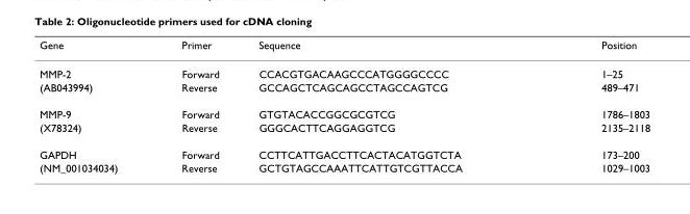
<table><thead><tr><td>Gene</td><td>Primer</td><td>Sequence</td><td>Position</td></tr></thead><tbody><tr><td>MMP-2</td><td>Forward</td><td>CCACGTGACAAGCCCATGGGGCCCC</td><td>1–25</td></tr><tr><td>(AB043994)</td><td>Reverse</td><td>GCCAGCTCAGCAGCCTAGCCAGTCG</td><td>489–471</td></tr><tr><td>MMP-9</td><td>Forward</td><td>GTGTACACCGGCGCGTCG</td><td>1786–1803</td></tr><tr><td>(X78324)</td><td>Reverse</td><td>GGGCACTTCAGGAGGTCG</td><td>2135–2118</td></tr><tr><td>GAPDH</td><td>Forward</td><td>CCTTCATTGACCTTCACTACATGGTCTA</td><td>173–200</td></tr><tr><td>(NM_001034034)</td><td>Reverse</td><td>GCTGTAGCCAAATTCATTGTCGTTACCA</td><td>1029–1003</td></tr></tbody></table>